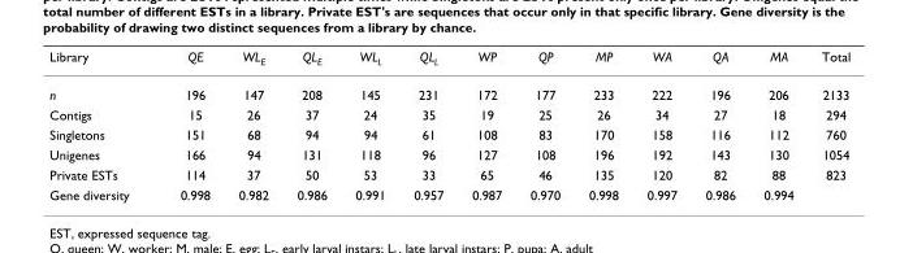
<table><thead><tr><td>Library</td><td>QE</td><td>WLE</td><td>QLE</td><td>WLL</td><td>QLL</td><td>WP</td><td>QP</td><td>MP</td><td>WA</td><td>QA</td><td>MA</td><td>Total</td></tr></thead><tbody><tr><td>n</td><td>196</td><td>147</td><td>208</td><td>145</td><td>231</td><td>172</td><td>177</td><td>233</td><td>222</td><td>196</td><td>206</td><td>2133</td></tr><tr><td>Contigs</td><td>15</td><td>26</td><td>37</td><td>24</td><td>35</td><td>19</td><td>25</td><td>26</td><td>34</td><td>27</td><td>18</td><td>294</td></tr><tr><td>Singletons</td><td>151</td><td>68</td><td>94</td><td>94</td><td>61</td><td>108</td><td>83</td><td>170</td><td>158</td><td>116</td><td>112</td><td>760</td></tr><tr><td>Unigenes</td><td>166</td><td>94</td><td>131</td><td>118</td><td>96</td><td>127</td><td>108</td><td>196</td><td>192</td><td>143</td><td>130</td><td>1054</td></tr><tr><td>Private ESTs</td><td>114</td><td>37</td><td>50</td><td>53</td><td>33</td><td>65</td><td>46</td><td>135</td><td>120</td><td>82</td><td>88</td><td>823</td></tr><tr><td>Gene diversity</td><td>0.998</td><td>0.982</td><td>0.986</td><td>0.991</td><td>0.957</td><td>0.987</td><td>0.970</td><td>0.998</td><td>0.997</td><td>0.986</td><td>0.994</td><td></td></tr></tbody></table>